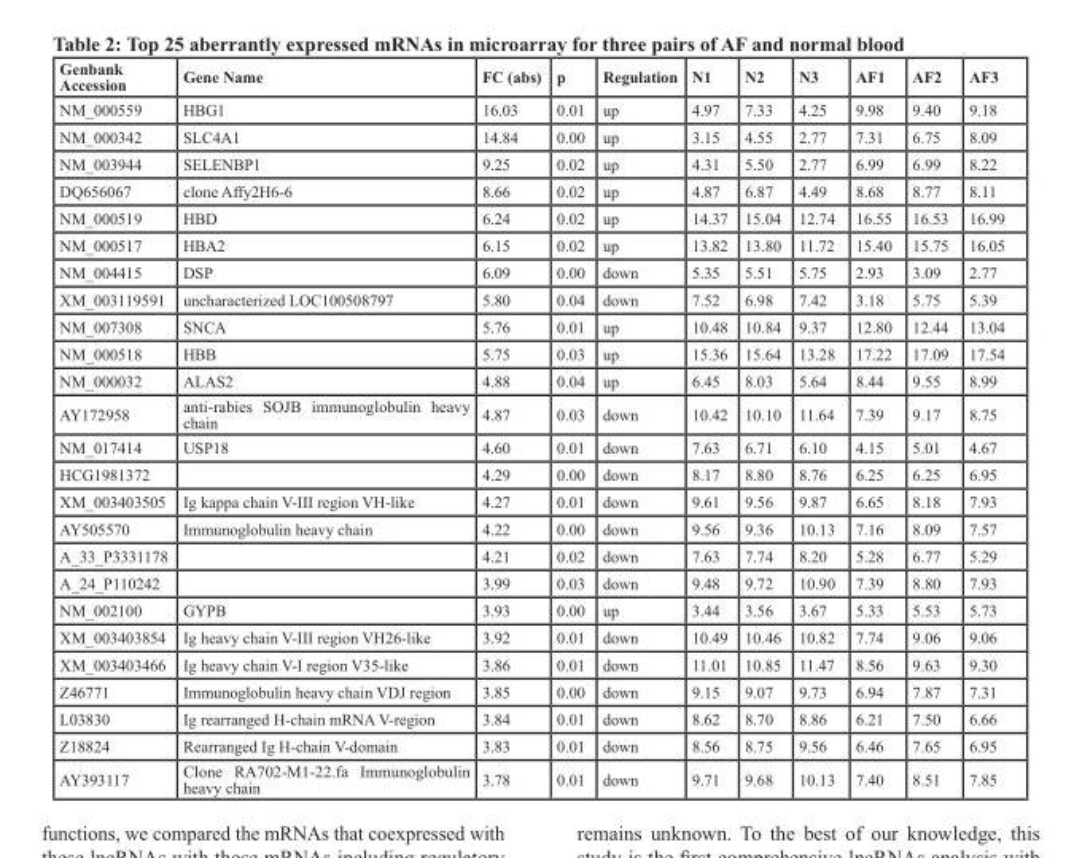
<table><thead><tr><td>Genbank Accession</td><td>Gene Name</td><td>FC (abs)</td><td>p</td><td>Regulation</td><td>N1</td><td>N2</td><td>N3</td><td>AF1</td><td>AF2</td><td>AF3</td></tr></thead><tbody><tr><td>NM_000559</td><td>HBG1</td><td>16.03</td><td>0.01</td><td>up</td><td>4.97</td><td>7.33</td><td>4.25</td><td>9.98</td><td>9.40</td><td>9.18</td></tr><tr><td>NM_000342</td><td>SLC4A1</td><td>14.84</td><td>0.00</td><td>up</td><td>3.15</td><td>4.55</td><td>2.77</td><td>7.31</td><td>6.75</td><td>8.09</td></tr><tr><td>NM_003944</td><td>SELENBP1</td><td>9.25</td><td>0.02</td><td>up</td><td>4.31</td><td>5.50</td><td>2.77</td><td>6.99</td><td>6.99</td><td>8.22</td></tr><tr><td>DQ656067</td><td>clone Affy2H6-6</td><td>8.66</td><td>0.02</td><td>up</td><td>4.87</td><td>6.87</td><td>4.49</td><td>8.68</td><td>8.77</td><td>8.11</td></tr><tr><td>NM_000519</td><td>HBD</td><td>6.24</td><td>0.02</td><td>up</td><td>14.37</td><td>15.04</td><td>12.74</td><td>16.55</td><td>16.53</td><td>16.99</td></tr><tr><td>NM_000517</td><td>HBA2</td><td>6.15</td><td>0.02</td><td>up</td><td>13.82</td><td>13.80</td><td>11.72</td><td>15.40</td><td>15.75</td><td>16.05</td></tr><tr><td>NM_004415</td><td>DSP</td><td>6.09</td><td>0.00</td><td>down</td><td>5.35</td><td>5.51</td><td>5.75</td><td>2.93</td><td>3.09</td><td>2.77</td></tr><tr><td>XM_003119591</td><td>uncharacterized LOC100508797</td><td>5.80</td><td>0.04</td><td>down</td><td>7.52</td><td>6.98</td><td>7.42</td><td>3.18</td><td>5.75</td><td>5.39</td></tr><tr><td>NM_007308</td><td>SNCA</td><td>5.76</td><td>0.01</td><td>up</td><td>10.48</td><td>10.84</td><td>9.37</td><td>12.80</td><td>12.44</td><td>13.04</td></tr><tr><td>NM_000518</td><td>HBB</td><td>5.75</td><td>0.03</td><td>up</td><td>15.36</td><td>15.64</td><td>13.28</td><td>17.22</td><td>17.09</td><td>17.54</td></tr><tr><td>NM_000032</td><td>ALAS2</td><td>4.88</td><td>0.04</td><td>up</td><td>6.45</td><td>8.03</td><td>5.64</td><td>8.44</td><td>9.55</td><td>8.99</td></tr><tr><td>AY172958</td><td>anti-rabies SOJB immunoglobulin heavy chain</td><td>4.87</td><td>0.03</td><td>down</td><td>10.42</td><td>10.10</td><td>11.64</td><td>7.39</td><td>9.17</td><td>8.75</td></tr><tr><td>NM_017414</td><td>USP18</td><td>4.60</td><td>0.01</td><td>down</td><td>7.63</td><td>6.71</td><td>6.10</td><td>4.15</td><td>5.01</td><td>4.67</td></tr><tr><td>HCG1981372</td><td></td><td>4.29</td><td>0.00</td><td>down</td><td>8.17</td><td>8.80</td><td>8.76</td><td>6.25</td><td>6.25</td><td>6.95</td></tr><tr><td>XM_003403505</td><td>Ig kappa chain V-III region VH-like</td><td>4.27</td><td>0.01</td><td>down</td><td>9.61</td><td>9.56</td><td>9.87</td><td>6.65</td><td>8.18</td><td>7.93</td></tr><tr><td>AY505570</td><td>Immunoglobulin heavy chain</td><td>4.22</td><td>0.00</td><td>down</td><td>9.56</td><td>9.36</td><td>10.13</td><td>7.16</td><td>8.09</td><td>7.57</td></tr><tr><td>A_33_P3331178</td><td></td><td>4.21</td><td>0.02</td><td>down</td><td>7.63</td><td>7.74</td><td>8.20</td><td>5.28</td><td>6.77</td><td>5.29</td></tr><tr><td>A_24_P110242</td><td></td><td>3.99</td><td>0.03</td><td>down</td><td>9.48</td><td>9.72</td><td>10.90</td><td>7.39</td><td>8.80</td><td>7.93</td></tr><tr><td>NM_002100</td><td>GYPB</td><td>3.93</td><td>0.00</td><td>up</td><td>3.44</td><td>3.56</td><td>3.67</td><td>5.33</td><td>5.53</td><td>5.73</td></tr><tr><td>XM_003403854</td><td>Ig heavy chain V-III region VH26-like</td><td>3.92</td><td>0.01</td><td>down</td><td>10.49</td><td>10.46</td><td>10.82</td><td>7.74</td><td>9.06</td><td>9.06</td></tr><tr><td>XM_003403466</td><td>Ig heavy chain V-I region V35-like</td><td>3.86</td><td>0.01</td><td>down</td><td>11.01</td><td>10.85</td><td>11.47</td><td>8.56</td><td>9.63</td><td>9.30</td></tr><tr><td>Z46771</td><td>Immunoglobulin heavy chain VDJ region</td><td>3.85</td><td>0.00</td><td>down</td><td>9.15</td><td>9.07</td><td>9.73</td><td>6.94</td><td>7.87</td><td>7.31</td></tr><tr><td>L03830</td><td>Ig rearranged H-chain mRNA V-region</td><td>3.84</td><td>0.01</td><td>down</td><td>8.62</td><td>8.70</td><td>8.86</td><td>6.21</td><td>7.50</td><td>6.66</td></tr><tr><td>Z18824</td><td>Rearranged Ig H-chain V-domain</td><td>3.83</td><td>0.01</td><td>down</td><td>8.56</td><td>8.75</td><td>9.56</td><td>6.46</td><td>7.65</td><td>6.95</td></tr><tr><td>AY393117</td><td>Clone RA702-M1-22.fa Immunoglobulin heavy chain</td><td>3.78</td><td>0.01</td><td>down</td><td>9.71</td><td>9.68</td><td>10.13</td><td>7.40</td><td>8.51</td><td>7.85</td></tr></tbody></table>